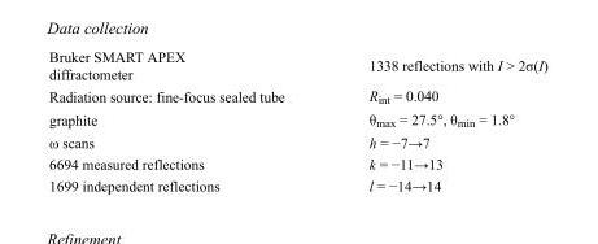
<table><tbody><tr><td>Bruker SMART APEX diffractometer</td><td>1338 reflections with I &gt; 2σ(I)</td></tr><tr><td>Radiation source: fine-focus sealed tube</td><td>R<sub>int</sub> = 0.040</td></tr><tr><td>graphite</td><td>θ<sub>max</sub> = 27.5°, θ<sub>min</sub> = 1.8°</td></tr><tr><td>ω scans</td><td>h = −7→7</td></tr><tr><td>6694 measured reflections</td><td>k = −11→13</td></tr><tr><td>1699 independent reflections</td><td>l = −14→14</td></tr></tbody></table>